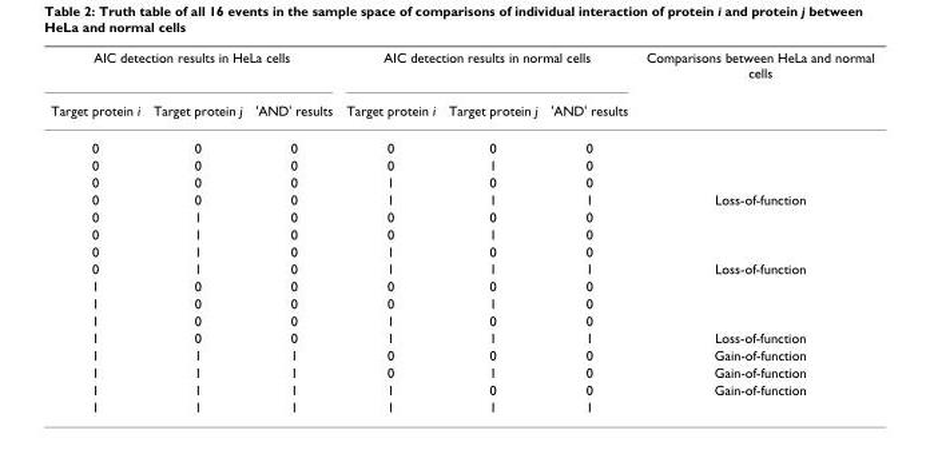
<table><thead><tr><td colspan="3">AIC detection results in HeLa cells</td><td colspan="3">AIC detection results in normal cells</td><td rowspan="2">Comparisons between HeLa and normal cells</td></tr><tr><td>Target protein i</td><td>Target protein j</td><td>&#x27;AND&#x27; results</td><td>Target protein i</td><td>Target protein j</td><td>&#x27;AND&#x27; results</td></tr></thead><tbody><tr><td>0</td><td>0</td><td>0</td><td>0</td><td>0</td><td>0</td><td></td></tr><tr><td>0</td><td>0</td><td>0</td><td>0</td><td>1</td><td>0</td><td></td></tr><tr><td>0</td><td>0</td><td>0</td><td>1</td><td>0</td><td>0</td><td></td></tr><tr><td>0</td><td>0</td><td>0</td><td>1</td><td>1</td><td>1</td><td>Loss-of-function</td></tr><tr><td>0</td><td>1</td><td>0</td><td>0</td><td>0</td><td>0</td><td></td></tr><tr><td>0</td><td>1</td><td>0</td><td>0</td><td>1</td><td>0</td><td></td></tr><tr><td>0</td><td>1</td><td>0</td><td>1</td><td>0</td><td>0</td><td></td></tr><tr><td>0</td><td>1</td><td>0</td><td>1</td><td>1</td><td>1</td><td>Loss-of-function</td></tr><tr><td>1</td><td>0</td><td>0</td><td>0</td><td>0</td><td>0</td><td></td></tr><tr><td>1</td><td>0</td><td>0</td><td>0</td><td>1</td><td>0</td><td></td></tr><tr><td>1</td><td>0</td><td>0</td><td>1</td><td>0</td><td>0</td><td></td></tr><tr><td>1</td><td>0</td><td>0</td><td>1</td><td>1</td><td>1</td><td>Loss-of-function</td></tr><tr><td>1</td><td>1</td><td>1</td><td>0</td><td>0</td><td>0</td><td>Gain-of-function</td></tr><tr><td>1</td><td>1</td><td>1</td><td>0</td><td>1</td><td>0</td><td>Gain-of-function</td></tr><tr><td>1</td><td>1</td><td>1</td><td>1</td><td>0</td><td>0</td><td>Gain-of-function</td></tr><tr><td>1</td><td>1</td><td>1</td><td>1</td><td>1</td><td>1</td><td></td></tr></tbody></table>